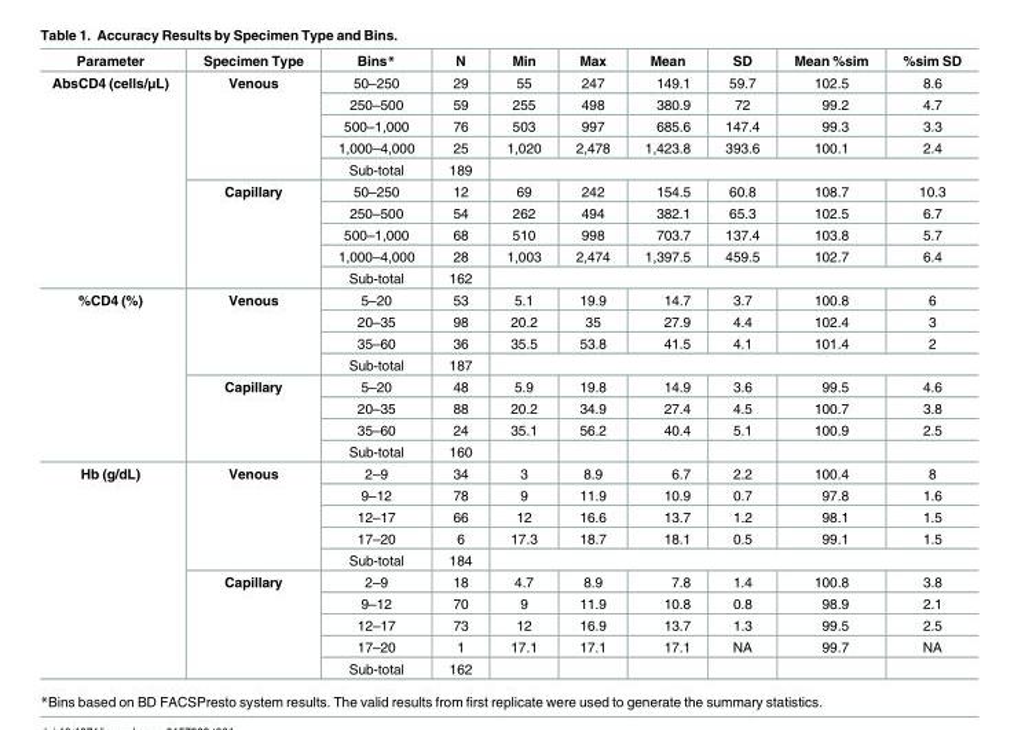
<table><thead><tr><td>Parameter</td><td>Specimen Type</td><td>Bins*</td><td>N</td><td>Min</td><td>Max</td><td>Mean</td><td>SD</td><td>Mean %sim</td><td>%sim SD</td></tr></thead><tbody><tr><td rowspan="10">AbsCD4 (cells/μL)</td><td rowspan="5">Venous</td><td>50–250</td><td>29</td><td>55</td><td>247</td><td>149.1</td><td>59.7</td><td>102.5</td><td>8.6</td></tr><tr><td>250–500</td><td>59</td><td>255</td><td>498</td><td>380.9</td><td>72</td><td>99.2</td><td>4.7</td></tr><tr><td>500–1,000</td><td>76</td><td>503</td><td>997</td><td>685.6</td><td>147.4</td><td>99.3</td><td>3.3</td></tr><tr><td>1,000–4,000</td><td>25</td><td>1,020</td><td>2,478</td><td>1,423.8</td><td>393.6</td><td>100.1</td><td>2.4</td></tr><tr><td>Sub-total</td><td>189</td><td colspan="6"></td></tr><tr><td rowspan="5">Capillary</td><td>50–250</td><td>12</td><td>69</td><td>242</td><td>154.5</td><td>60.8</td><td>108.7</td><td>10.3</td></tr><tr><td>250–500</td><td>54</td><td>262</td><td>494</td><td>382.1</td><td>65.3</td><td>102.5</td><td>6.7</td></tr><tr><td>500–1,000</td><td>68</td><td>510</td><td>998</td><td>703.7</td><td>137.4</td><td>103.8</td><td>5.7</td></tr><tr><td>1,000–4,000</td><td>28</td><td>1,003</td><td>2,474</td><td>1,397.5</td><td>459.5</td><td>102.7</td><td>6.4</td></tr><tr><td>Sub-total</td><td>162</td><td colspan="6"></td></tr><tr><td rowspan="8">%CD4 (%)</td><td rowspan="4">Venous</td><td>5–20</td><td>53</td><td>5.1</td><td>19.9</td><td>14.7</td><td>3.7</td><td>100.8</td><td>6</td></tr><tr><td>20–35</td><td>98</td><td>20.2</td><td>35</td><td>27.9</td><td>4.4</td><td>102.4</td><td>3</td></tr><tr><td>35–60</td><td>36</td><td>35.5</td><td>53.8</td><td>41.5</td><td>4.1</td><td>101.4</td><td>2</td></tr><tr><td>Sub-total</td><td>187</td><td colspan="6"></td></tr><tr><td rowspan="4">Capillary</td><td>5–20</td><td>48</td><td>5.9</td><td>19.8</td><td>14.9</td><td>3.6</td><td>99.5</td><td>4.6</td></tr><tr><td>20–35</td><td>88</td><td>20.2</td><td>34.9</td><td>27.4</td><td>4.5</td><td>100.7</td><td>3.8</td></tr><tr><td>35–60</td><td>24</td><td>35.1</td><td>56.2</td><td>40.4</td><td>5.1</td><td>100.9</td><td>2.5</td></tr><tr><td>Sub-total</td><td>160</td><td></td><td></td><td></td><td></td><td></td><td></td></tr><tr><td rowspan="10">Hb (g/dL)</td><td rowspan="5">Venous</td><td>2–9</td><td>34</td><td>3</td><td>8.9</td><td>6.7</td><td>2.2</td><td>100.4</td><td>8</td></tr><tr><td>9–12</td><td>78</td><td>9</td><td>11.9</td><td>10.9</td><td>0.7</td><td>97.8</td><td>1.6</td></tr><tr><td>12–17</td><td>66</td><td>12</td><td>16.6</td><td>13.7</td><td>1.2</td><td>98.1</td><td>1.5</td></tr><tr><td>17–20</td><td>6</td><td>17.3</td><td>18.7</td><td>18.1</td><td>0.5</td><td>99.1</td><td>1.5</td></tr><tr><td>Sub-total</td><td>184</td><td colspan="6"></td></tr><tr><td rowspan="5">Capillary</td><td>2–9</td><td>18</td><td>4.7</td><td>8.9</td><td>7.8</td><td>1.4</td><td>100.8</td><td>3.8</td></tr><tr><td>9–12</td><td>70</td><td>9</td><td>11.9</td><td>10.8</td><td>0.8</td><td>98.9</td><td>2.1</td></tr><tr><td>12–17</td><td>73</td><td>12</td><td>16.9</td><td>13.7</td><td>1.3</td><td>99.5</td><td>2.5</td></tr><tr><td>17–20</td><td>1</td><td>17.1</td><td>17.1</td><td>17.1</td><td>NA</td><td>99.7</td><td>NA</td></tr><tr><td>Sub-total</td><td>162</td><td></td><td></td><td></td><td></td><td></td><td></td></tr></tbody></table>